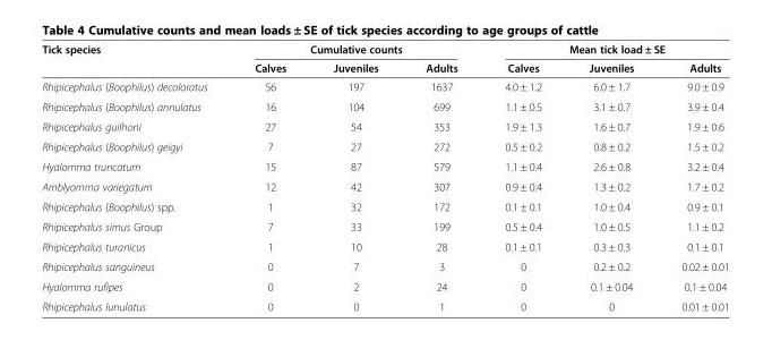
<table><thead><tr><td rowspan="2">Tick species</td><td colspan="3">Cumulative counts</td><td colspan="3">Mean tick load ± SE</td></tr><tr><td>Calves</td><td>Juveniles</td><td>Adults</td><td>Calves</td><td>Juveniles</td><td>Adults</td></tr></thead><tbody><tr><td>Rhipicephalus (Boophilus) decoloratus</td><td>56</td><td>197</td><td>1637</td><td>4.0 ± 1.2</td><td>6.0 ± 1.7</td><td>9.0 ± 0.9</td></tr><tr><td>Rhipicephalus (Boophilus) annulatus</td><td>16</td><td>104</td><td>699</td><td>1.1 ± 0.5</td><td>3.1 ± 0.7</td><td>3.9 ± 0.4</td></tr><tr><td>Rhipicephalus guilhoni</td><td>27</td><td>54</td><td>353</td><td>1.9 ± 1.3</td><td>1.6 ± 0.7</td><td>1.9 ± 0.6</td></tr><tr><td>Rhipicephalus (Boophilus) geigyi</td><td>7</td><td>27</td><td>272</td><td>0.5 ± 0.2</td><td>0.8 ± 0.2</td><td>1.5 ± 0.2</td></tr><tr><td>Hyalomma truncatum</td><td>15</td><td>87</td><td>579</td><td>1.1 ± 0.4</td><td>2.6 ± 0.8</td><td>3.2 ± 0.4</td></tr><tr><td>Amblyomma variegatum</td><td>12</td><td>42</td><td>307</td><td>0.9 ± 0.4</td><td>1.3 ± 0.2</td><td>1.7 ± 0.2</td></tr><tr><td>Rhipicephalus (Boophilus) spp.</td><td>1</td><td>32</td><td>172</td><td>0.1 ± 0.1</td><td>1.0 ± 0.4</td><td>0.9 ± 0.1</td></tr><tr><td>Rhipicephalus simus Group</td><td>7</td><td>33</td><td>199</td><td>0.5 ± 0.4</td><td>1.0 ± 0.5</td><td>1.1 ± 0.2</td></tr><tr><td>Rhipicephalus turanicus</td><td>1</td><td>10</td><td>28</td><td>0.1 ± 0.1</td><td>0.3 ± 0.3</td><td>0.1 ± 0.1</td></tr><tr><td>Rhipicephalus sanguineus</td><td>0</td><td>7</td><td>3</td><td>0</td><td>0.2 ± 0.2</td><td>0.02 ± 0.01</td></tr><tr><td>Hyalomma rufipes</td><td>0</td><td>2</td><td>24</td><td>0</td><td>0.1 ± 0.04</td><td>0.1 ± 0.04</td></tr><tr><td>Rhipicephalus lunulatus</td><td>0</td><td>0</td><td>1</td><td>0</td><td>0</td><td>0.01 ± 0.01</td></tr></tbody></table>